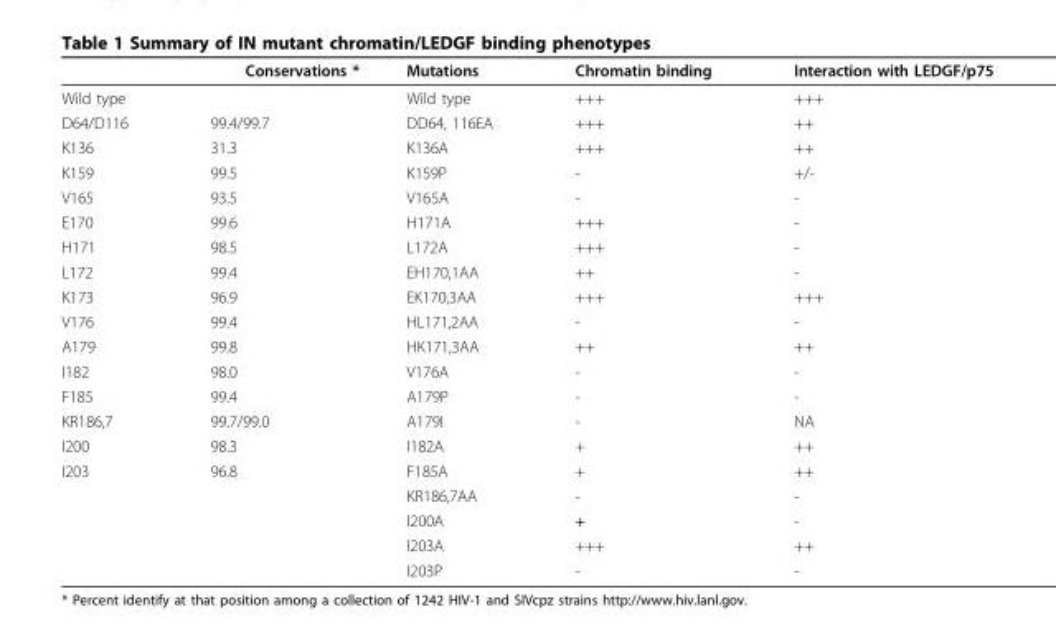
<table><thead><tr><td></td><td>Conservations *</td><td>Mutations</td><td>Chromatin binding</td><td>Interaction with LEDGF/p75</td></tr></thead><tbody><tr><td>Wild type</td><td></td><td>Wild type</td><td>+++</td><td>+++</td></tr><tr><td>D64/D116</td><td>99.4/99.7</td><td>DD64, 116EA</td><td>+++</td><td>++</td></tr><tr><td>K136</td><td>31.3</td><td>K136A</td><td>+++</td><td>++</td></tr><tr><td>K159</td><td>99.5</td><td>K159P</td><td>-</td><td>+/-</td></tr><tr><td>V165</td><td>93.5</td><td>V165A</td><td>-</td><td>-</td></tr><tr><td>E170</td><td>99.6</td><td>H171A</td><td>+++</td><td>-</td></tr><tr><td>H171</td><td>98.5</td><td>L172A</td><td>+++</td><td>-</td></tr><tr><td>L172</td><td>99.4</td><td>EH170,1AA</td><td>++</td><td>-</td></tr><tr><td>K173</td><td>96.9</td><td>EK170,3AA</td><td>+++</td><td>+++</td></tr><tr><td>V176</td><td>99.4</td><td>HL171,2AA</td><td>-</td><td>-</td></tr><tr><td>A179</td><td>99.8</td><td>HK171,3AA</td><td>++</td><td>++</td></tr><tr><td>I182</td><td>98.0</td><td>V176A</td><td>-</td><td>-</td></tr><tr><td>F185</td><td>99.4</td><td>A179P</td><td>-</td><td>-</td></tr><tr><td>KR186,7</td><td>99.7/99.0</td><td>A179I</td><td>-</td><td>NA</td></tr><tr><td>I200</td><td>98.3</td><td>I182A</td><td>+</td><td>++</td></tr><tr><td>I203</td><td>96.8</td><td>F185A</td><td>+</td><td>++</td></tr><tr><td colspan="2"></td><td>KR186,7AA</td><td>-</td><td>-</td></tr><tr><td colspan="2"></td><td>I200A</td><td>+</td><td>-</td></tr><tr><td colspan="2"></td><td>I203A</td><td>+++</td><td>++</td></tr><tr><td colspan="2"></td><td>I203P</td><td>-</td><td>-</td></tr></tbody></table>